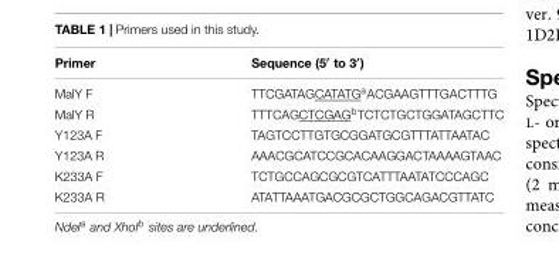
<table><thead><tr><td>Primer</td><td>Sequence (5′ to 3′)</td></tr></thead><tbody><tr><td>MalY F</td><td>TTCGATAGCATATG<sup>a</sup>ACGAAGTTTGACTTTG</td></tr><tr><td>MalY R</td><td>TTTCAGCTCGAG<sup>b</sup>TCTCTGCTGGATAGCTTC</td></tr><tr><td>Y123A F</td><td>TAGTCCTTGTGCGGATGCGTTTATTAATAC</td></tr><tr><td>Y123A R</td><td>AAACGCATCCGCACAAGGACTAAAAGTAAC</td></tr><tr><td>K233A F</td><td>TCTGCCAGCGCGTCATTTAATATCCCAGC</td></tr><tr><td>K233A R</td><td>ATATTAAATGACGCGCTGGCAGACGTTATC</td></tr></tbody></table>